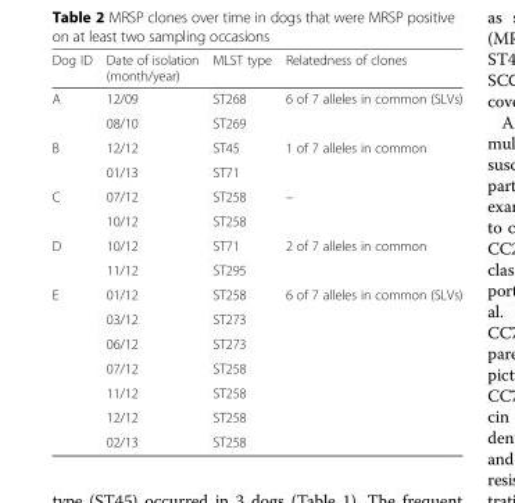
<table><thead><tr><td>Dog ID</td><td>Date of isolation (month/year)</td><td>MLST type</td><td>Relatedness of clones</td></tr></thead><tbody><tr><td rowspan="2">A</td><td>12/09</td><td>ST268</td><td rowspan="2">6 of 7 alleles in common (SLVs)</td></tr><tr><td>08/10</td><td>ST269</td></tr><tr><td rowspan="2">B</td><td>12/12</td><td>ST45</td><td rowspan="2">1 of 7 alleles in common</td></tr><tr><td>01/13</td><td>ST71</td></tr><tr><td rowspan="2">C</td><td>07/12</td><td>ST258</td><td rowspan="2">–</td></tr><tr><td>10/12</td><td>ST258</td></tr><tr><td rowspan="2">D</td><td>10/12</td><td>ST71</td><td rowspan="2">2 of 7 alleles in common</td></tr><tr><td>11/12</td><td>ST295</td></tr><tr><td rowspan="7">E</td><td>01/12</td><td>ST258</td><td rowspan="7">6 of 7 alleles in common (SLVs)</td></tr><tr><td>03/12</td><td>ST273</td></tr><tr><td>06/12</td><td>ST273</td></tr><tr><td>07/12</td><td>ST258</td></tr><tr><td>11/12</td><td>ST258</td></tr><tr><td>12/12</td><td>ST258</td></tr><tr><td>02/13</td><td>ST258</td></tr></tbody></table>